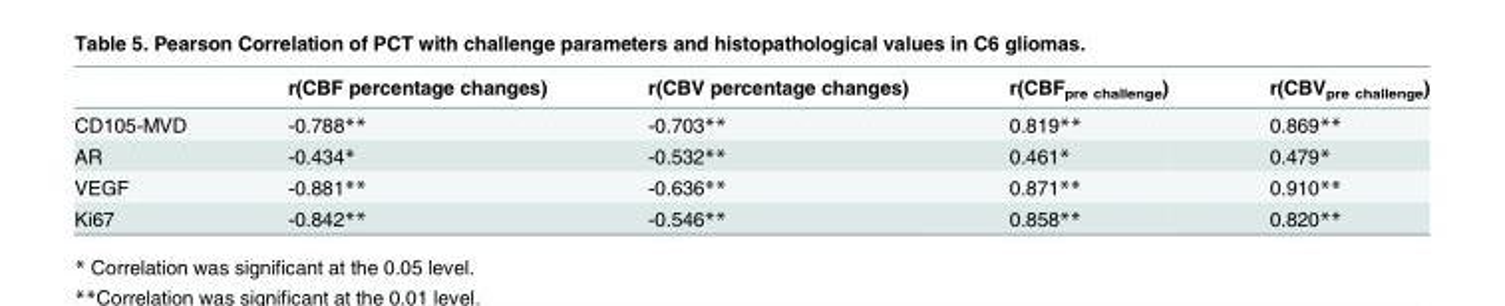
<table><thead><tr><td></td><td>r(CBF percentage changes)</td><td>r(CBV percentage changes)</td><td>r(CBF<sub>pre challenge</sub>)</td><td>r(CBV<sub>pre challenge</sub>)</td></tr></thead><tbody><tr><td>CD105-MVD</td><td>-0.788**</td><td>-0.703**</td><td>0.819**</td><td>0.869**</td></tr><tr><td>AR</td><td>-0.434*</td><td>-0.532**</td><td>0.461*</td><td>0.479*</td></tr><tr><td>VEGF</td><td>-0.881**</td><td>-0.636**</td><td>0.871**</td><td>0.910**</td></tr><tr><td>Ki67</td><td>-0.842**</td><td>-0.546**</td><td>0.858**</td><td>0.820**</td></tr></tbody></table>